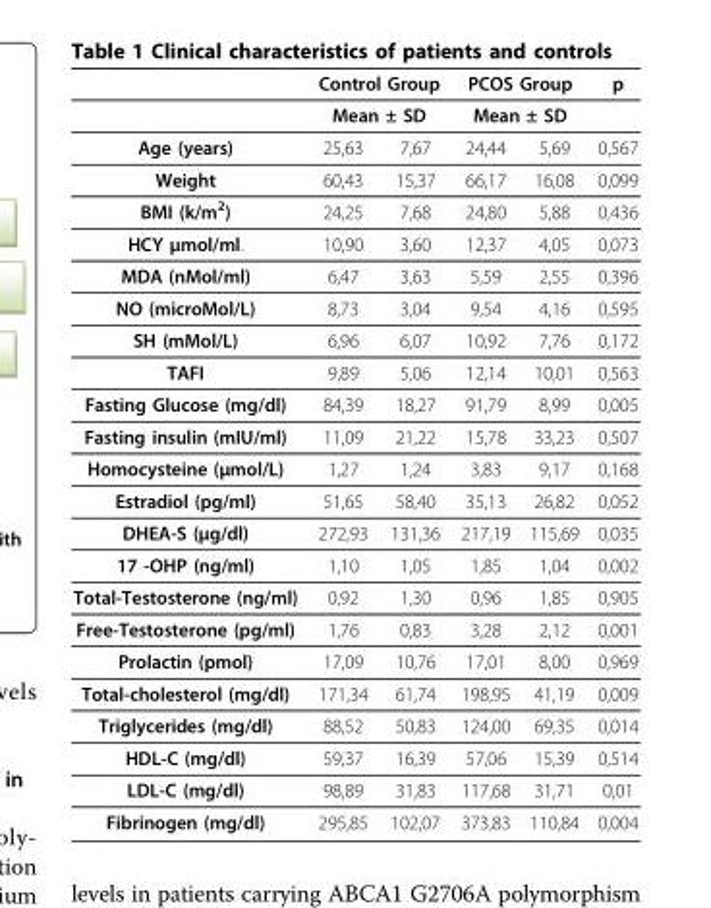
<table><thead><tr><td rowspan="3">Age (years)</td><td rowspan="2" colspan="2">Control Group Mean ± SD</td><td rowspan="2" colspan="2">PCOS Group Mean ± SD</td><td rowspan="3">p 0,567</td></tr><tr></tr><tr><td>25,63</td><td>7,67</td><td>24,44</td><td>5,69</td></tr></thead><tbody><tr><td>Weight</td><td>60,43</td><td>15,37</td><td>66,17</td><td>16,08</td><td>0,099</td></tr><tr><td>BMI (k/m<sup>2</sup>)</td><td>24,25</td><td>7,68</td><td>24,80</td><td>5,88</td><td>0,436</td></tr><tr><td>HCY μmol/ml.</td><td>10,90</td><td>3,60</td><td>12,37</td><td>4,05</td><td>0,073</td></tr><tr><td>MDA (nMol/ml)</td><td>6,47</td><td>3,63</td><td>5,59</td><td>2,55</td><td>0,396</td></tr><tr><td>NO (microMol/L)</td><td>8,73</td><td>3,04</td><td>9,54</td><td>4,16</td><td>0,595</td></tr><tr><td>SH (mMol/L)</td><td>6,96</td><td>6,07</td><td>10,92</td><td>7,76</td><td>0,172</td></tr><tr><td>TAFI</td><td>9,89</td><td>5,06</td><td>12,14</td><td>10,01</td><td>0,563</td></tr><tr><td>Fasting Glucose (mg/dl)</td><td>84,39</td><td>18,27</td><td>91,79</td><td>8,99</td><td>0,005</td></tr><tr><td>Fasting insulin (mIU/ml)</td><td>11,09</td><td>21,22</td><td>15,78</td><td>33,23</td><td>0,507</td></tr><tr><td>Homocysteine (μmol/L)</td><td>1,27</td><td>1,24</td><td>3,83</td><td>9,17</td><td>0,168</td></tr><tr><td>Estradiol (pg/ml)</td><td>51,65</td><td>58,40</td><td>35,13</td><td>26,82</td><td>0,052</td></tr><tr><td>DHEA-S (μg/dl)</td><td>272,93</td><td>131,36</td><td>217,19</td><td>115,69</td><td>0,035</td></tr><tr><td>17 -OHP (ng/ml)</td><td>1,10</td><td>1,05</td><td>1,85</td><td>1,04</td><td>0,002</td></tr><tr><td>Total-Testosterone (ng/ml)</td><td>0,92</td><td>1,30</td><td>0,96</td><td>1,85</td><td>0,905</td></tr><tr><td>Free-Testosterone (pg/ml)</td><td>1,76</td><td>0,83</td><td>3,28</td><td>2,12</td><td>0,001</td></tr><tr><td>Prolactin (pmol)</td><td>17,09</td><td>10,76</td><td>17,01</td><td>8,00</td><td>0,969</td></tr><tr><td>Total-cholesterol (mg/dl)</td><td>171,34</td><td>61,74</td><td>198,95</td><td>41,19</td><td>0,009</td></tr><tr><td>Triglycerides (mg/dl)</td><td>88,52</td><td>50,83</td><td>124,00</td><td>69,35</td><td>0,014</td></tr><tr><td>HDL-C (mg/dl)</td><td>59,37</td><td>16,39</td><td>57,06</td><td>15,39</td><td>0,514</td></tr><tr><td>LDL-C (mg/dl)</td><td>98,89</td><td>31,83</td><td>117,68</td><td>31,71</td><td>0,01</td></tr><tr><td>Fibrinogen (mg/dl)</td><td>295,85</td><td>102,07</td><td>373,83</td><td>110,84</td><td>0,004</td></tr></tbody></table>